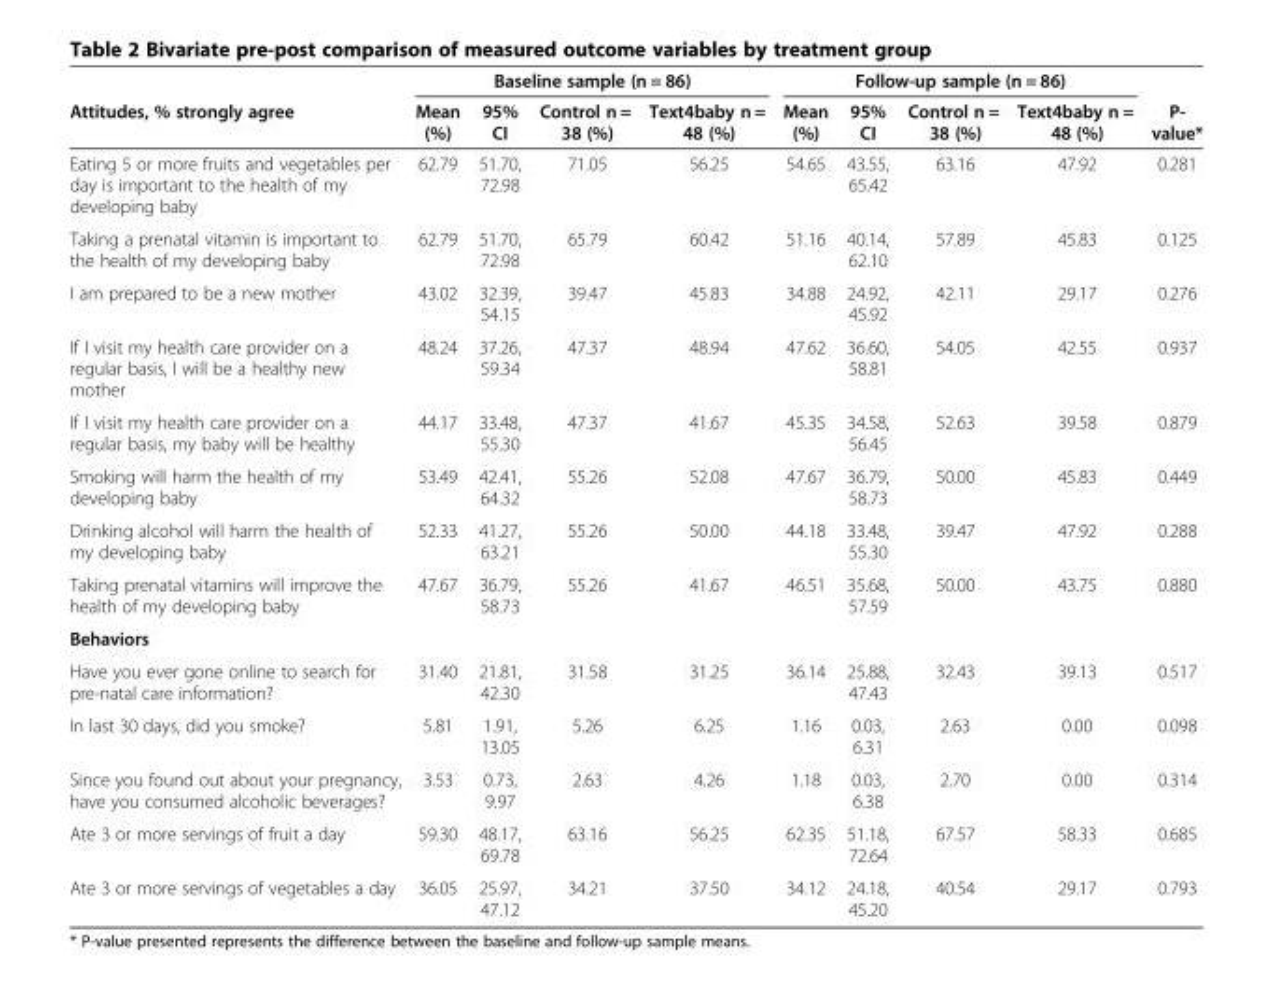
<table><thead><tr><td rowspan="2">Attitudes, % strongly agree</td><td colspan="4">Baseline sample (n = 86)</td><td colspan="4">Follow-up sample (n = 86)</td><td rowspan="2">P- value*</td></tr><tr><td>Mean (%)</td><td>95% CI</td><td>Control n = 38 (%)</td><td>Text4baby n = 48 (%)</td><td>Mean (%)</td><td>95% CI</td><td>Control n = 38 (%)</td><td>Text4baby n = 48 (%)</td></tr></thead><tbody><tr><td>Eating 5 or more fruits and vegetables per day is important to the health of my developing baby</td><td>62.79</td><td>51.70, 72.98</td><td>71.05</td><td>56.25</td><td>54.65</td><td>43.55, 65.42</td><td>63.16</td><td>47.92</td><td>0.281</td></tr><tr><td>Taking a prenatal vitamin is important to the health of my developing baby</td><td>62.79</td><td>51.70, 72.98</td><td>65.79</td><td>60.42</td><td>51.16</td><td>40.14, 62.10</td><td>57.89</td><td>45.83</td><td>0.125</td></tr><tr><td>I am prepared to be a new mother</td><td>43.02</td><td>32.39, 54.15</td><td>39.47</td><td>45.83</td><td>34.88</td><td>24.92, 45.92</td><td>42.11</td><td>29.17</td><td>0.276</td></tr><tr><td>If I visit my health care provider on a regular basis, I will be a healthy new mother</td><td>48.24</td><td>37.26, 59.34</td><td>47.37</td><td>48.94</td><td>47.62</td><td>36.60, 58.81</td><td>54.05</td><td>42.55</td><td>0.937</td></tr><tr><td>If I visit my health care provider on a regular basis, my baby will be healthy</td><td>44.17</td><td>33.48, 55.30</td><td>47.37</td><td>41.67</td><td>45.35</td><td>34.58, 56.45</td><td>52.63</td><td>39.58</td><td>0.879</td></tr><tr><td>Smoking will harm the health of my developing baby</td><td>53.49</td><td>42.41, 64.32</td><td>55.26</td><td>52.08</td><td>47.67</td><td>36.79, 58.73</td><td>50.00</td><td>45.83</td><td>0.449</td></tr><tr><td>Drinking alcohol will harm the health of my developing baby</td><td>52.33</td><td>41.27, 63.21</td><td>55.26</td><td>50.00</td><td>44.18</td><td>33.48, 55.30</td><td>39.47</td><td>47.92</td><td>0.288</td></tr><tr><td>Taking prenatal vitamins will improve the health of my developing baby</td><td>47.67</td><td>36.79, 58.73</td><td>55.26</td><td>41.67</td><td>46.51</td><td>35.68, 57.59</td><td>50.00</td><td>43.75</td><td>0.880</td></tr><tr><td colspan="10">Behaviors</td></tr><tr><td>Have you ever gone online to search for pre-natal care information?</td><td>31.40</td><td>21.81, 42.30</td><td>31.58</td><td>31.25</td><td>36.14</td><td>25.88, 47.43</td><td>32.43</td><td>39.13</td><td>0.517</td></tr><tr><td>In last 30 days, did you smoke?</td><td>5.81</td><td>1.91, 13.05</td><td>5.26</td><td>6.25</td><td>1.16</td><td>0.03, 6.31</td><td>2.63</td><td>0.00</td><td>0.098</td></tr><tr><td>Since you found out about your pregnancy, have you consumed alcoholic beverages?</td><td>3.53</td><td>0.73, 9.97</td><td>2.63</td><td>4.26</td><td>1.18</td><td>0.03, 6.38</td><td>2.70</td><td>0.00</td><td>0.314</td></tr><tr><td>Ate 3 or more servings of fruit a day</td><td>59.30</td><td>48.17, 69.78</td><td>63.16</td><td>56.25</td><td>62.35</td><td>51.18, 72.64</td><td>67.57</td><td>58.33</td><td>0.685</td></tr><tr><td>Ate 3 or more servings of vegetables a day</td><td>36.05</td><td>25.97, 47.12</td><td>34.21</td><td>37.50</td><td>34.12</td><td>24.18, 45.20</td><td>40.54</td><td>29.17</td><td>0.793</td></tr></tbody></table>